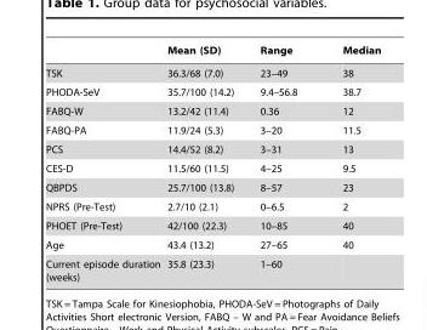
<table><thead><tr><td></td><td>Mean (SD)</td><td>Range</td><td>Median</td></tr></thead><tbody><tr><td>TSK</td><td>36.3/68 (7.0)</td><td>23–49</td><td>38</td></tr><tr><td>PHODA-SeV</td><td>35.7/100 (14.2)</td><td>9.4–56.8</td><td>38.7</td></tr><tr><td>FABQ-W</td><td>13.2/42 (11.4)</td><td>0.36</td><td>12</td></tr><tr><td>FABQ-PA</td><td>11.9/24 (5.3)</td><td>3–20</td><td>11.5</td></tr><tr><td>PCS</td><td>14.4/52 (8.2)</td><td>3–31</td><td>13</td></tr><tr><td>CES-D</td><td>11.5/60 (11.5)</td><td>4–25</td><td>9.5</td></tr><tr><td>QBPDS</td><td>25.7/100 (13.8)</td><td>8–57</td><td>23</td></tr><tr><td>NPRS (Pre-Test)</td><td>2.7/10 (2.1)</td><td>0–6.5</td><td>2</td></tr><tr><td>PHOET (Pre-Test)</td><td>42/100 (22.3)</td><td>10–85</td><td>40</td></tr><tr><td>Age</td><td>43.4 (13.2)</td><td>27–65</td><td>40</td></tr><tr><td>Current episode duration (weeks)</td><td>35.8 (23.3)</td><td>1–60</td><td></td></tr></tbody></table>